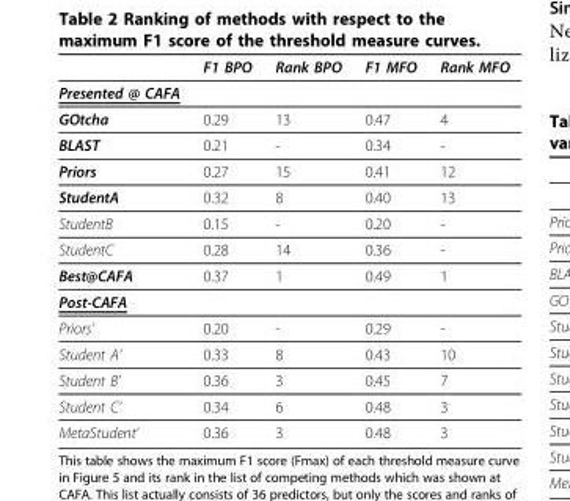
<table><thead><tr><td></td><td>F1 BPO</td><td>Rank BPO</td><td>F1 MFO</td><td>Rank MFO</td></tr></thead><tbody><tr><td colspan="5">Presented @ CAFA</td></tr><tr><td>GOtcha</td><td>0.29</td><td>13</td><td>0.47</td><td>4</td></tr><tr><td>BLAST</td><td>0.21</td><td>-</td><td>0.34</td><td>-</td></tr><tr><td>Priors</td><td>0.27</td><td>15</td><td>0.41</td><td>12</td></tr><tr><td>StudentA</td><td>0.32</td><td>8</td><td>0.40</td><td>13</td></tr><tr><td>StudentB</td><td>0.15</td><td>-</td><td>0.20</td><td>-</td></tr><tr><td>StudentC</td><td>0.28</td><td>14</td><td>0.36</td><td>-</td></tr><tr><td>Best@CAFA</td><td>0.37</td><td>1</td><td>0.49</td><td>1</td></tr><tr><td colspan="5">Post-CAFA</td></tr><tr><td>Priors’</td><td>0.20</td><td>-</td><td>0.29</td><td>-</td></tr><tr><td>Student A’</td><td>0.33</td><td>8</td><td>0.43</td><td>10</td></tr><tr><td>Student B’</td><td>0.36</td><td>3</td><td>0.45</td><td>7</td></tr><tr><td>Student C’</td><td>0.34</td><td>6</td><td>0.48</td><td>3</td></tr><tr><td>MetaStudent’</td><td>0.36</td><td>3</td><td>0.48</td><td>3</td></tr></tbody></table>